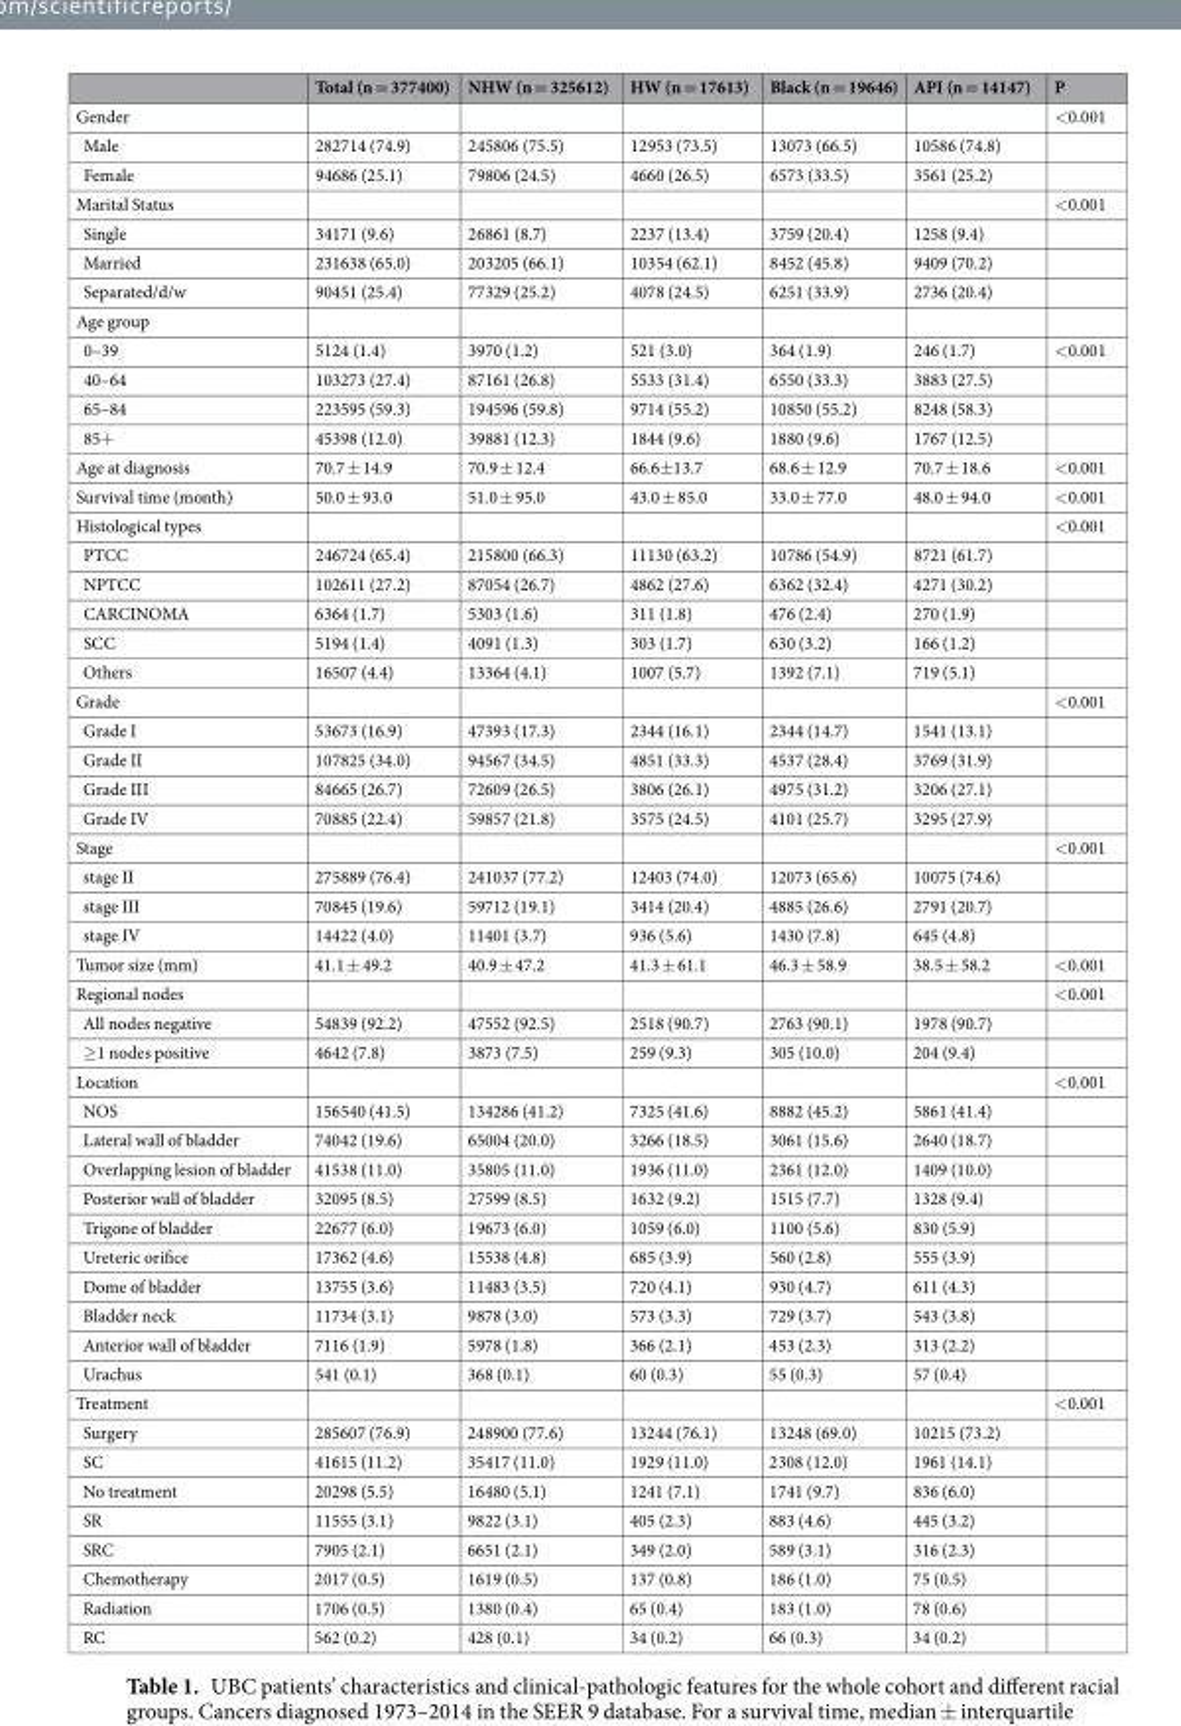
<table><thead><tr><td></td><td>Total (n = 377400)</td><td>NHW (n = 325612)</td><td>HW (n = 17613)</td><td>Black (n = 19646)</td><td>API (n = 14147)</td><td>P</td></tr></thead><tbody><tr><td>Gender</td><td></td><td></td><td></td><td></td><td></td><td>&lt;0.001</td></tr><tr><td>Male</td><td>282714 (74.9)</td><td>245806 (75.5)</td><td>12953 (73.5)</td><td>13073 (66.5)</td><td>10586 (74.8)</td><td></td></tr><tr><td>Female</td><td>94686 (25.1)</td><td>79806 (24.5)</td><td>4660 (26.5)</td><td>6573 (33.5)</td><td>3561 (25.2)</td><td></td></tr><tr><td>Marital Status</td><td></td><td></td><td></td><td></td><td></td><td>&lt;0.001</td></tr><tr><td>Single</td><td>34171 (9.6)</td><td>26861 (8.7)</td><td>2237 (13.4)</td><td>3759 (20.4)</td><td>1258 (9.4)</td><td></td></tr><tr><td>Married</td><td>231638 (65.0)</td><td>203205 (66.1)</td><td>10354 (62.1)</td><td>8452 (45.8)</td><td>9409 (70.2)</td><td></td></tr><tr><td>Separated/d/w</td><td>90451 (25.4)</td><td>77329 (25.2)</td><td>4078 (24.5)</td><td>6251 (33.9)</td><td>2736 (20.4)</td><td></td></tr><tr><td colspan="7">Age group</td></tr><tr><td>0–39</td><td>5124 (1.4)</td><td>3970 (1.2)</td><td>521 (3.0)</td><td>364 (1.9)</td><td>246 (1.7)</td><td>&lt;0.001</td></tr><tr><td>40–64</td><td>103273 (27.4)</td><td>87161 (26.8)</td><td>5533 (31.4)</td><td>6550 (33.3)</td><td>3883 (27.5)</td><td></td></tr><tr><td>65–84</td><td>223595 (59.3)</td><td>194596 (59.8)</td><td>9714 (55.2)</td><td>10850 (55.2)</td><td>8248 (58.3)</td><td></td></tr><tr><td>85+</td><td>45398 (12.0)</td><td>39881 (12.3)</td><td>1844 (9.6)</td><td>1880 (9.6)</td><td>1767 (12.5)</td><td></td></tr><tr><td>Age at diagnosis</td><td>70.7 ± 14.9</td><td>70.9 ± 12.4</td><td>66.6±13.7</td><td>68.6 ± 12.9</td><td>70.7 ± 18.6</td><td>&lt;0.001</td></tr><tr><td>Survival time (month)</td><td>50.0 ± 93.0</td><td>51.0 ± 95.0</td><td>43.0 ± 85.0</td><td>33.0 ± 77.0</td><td>48.0 ± 94.0</td><td>&lt;0.001</td></tr><tr><td>Histological types</td><td></td><td></td><td></td><td></td><td></td><td>&lt;0.001</td></tr><tr><td>PTCC</td><td>246724 (65.4)</td><td>215800 (66.3)</td><td>11130 (63.2)</td><td>10786 (54.9)</td><td>8721 (61.7)</td><td></td></tr><tr><td>NPTCC</td><td>102611 (27.2)</td><td>87054 (26.7)</td><td>4862 (27.6)</td><td>6362 (32.4)</td><td>4271 (30.2)</td><td></td></tr><tr><td>CARCINOMA</td><td>6364 (1.7)</td><td>5303 (1.6)</td><td>311 (1.8)</td><td>476 (2.4)</td><td>270 (1.9)</td><td></td></tr><tr><td>SCC</td><td>5194 (1.4)</td><td>4091 (1.3)</td><td>303 (1.7)</td><td>630 (3.2)</td><td>166 (1.2)</td><td></td></tr><tr><td>Others</td><td>16507 (4.4)</td><td>13364 (4.1)</td><td>1007 (5.7)</td><td>1392 (7.1)</td><td>719 (5.1)</td><td></td></tr><tr><td>Grade</td><td></td><td></td><td></td><td></td><td></td><td>&lt;0.001</td></tr><tr><td>Grade I</td><td>53673 (16.9)</td><td>47393 (17.3)</td><td>2344 (16.1)</td><td>2344 (14.7)</td><td>1541 (13.1)</td><td></td></tr><tr><td>Grade II</td><td>107825 (34.0)</td><td>94567 (34.5)</td><td>4851 (33.3)</td><td>4537 (28.4)</td><td>3769 (31.9)</td><td></td></tr><tr><td>Grade III</td><td>84665 (26.7)</td><td>72609 (26.5)</td><td>3806 (26.1)</td><td>4975 (31.2)</td><td>3206 (27.1)</td><td></td></tr><tr><td>Grade IV</td><td>70885 (22.4)</td><td>59857 (21.8)</td><td>3575 (24.5)</td><td>4101 (25.7)</td><td>3295 (27.9)</td><td></td></tr><tr><td>Stage</td><td></td><td></td><td></td><td></td><td></td><td>&lt;0.001</td></tr><tr><td>stage II</td><td>275889 (76.4)</td><td>241037 (77.2)</td><td>12403 (74.0)</td><td>12073 (65.6)</td><td>10075 (74.6)</td><td></td></tr><tr><td>stage III</td><td>70845 (19.6)</td><td>59712 (19.1)</td><td>3414 (20.4)</td><td>4885 (26.6)</td><td>2791 (20.7)</td><td></td></tr><tr><td>stage IV</td><td>14422 (4.0)</td><td>11401 (3.7)</td><td>936 (5.6)</td><td>1430 (7.8)</td><td>645 (4.8)</td><td></td></tr><tr><td>Tumor size (mm)</td><td>41.1 ± 49.2</td><td>40.9 ± 47.2</td><td>41.3 ± 61.1</td><td>46.3 ± 58.9</td><td>38.5 ± 58.2</td><td>&lt;0.001</td></tr><tr><td>Regional nodes</td><td></td><td></td><td></td><td></td><td></td><td>&lt;0.001</td></tr><tr><td>All nodes negative</td><td>54839 (92.2)</td><td>47552 (92.5)</td><td>2518 (90.7)</td><td>2763 (90.1)</td><td>1978 (90.7)</td><td></td></tr><tr><td>≥1 nodes positive</td><td>4642 (7.8)</td><td>3873 (7.5)</td><td>259 (9.3)</td><td>305 (10.0)</td><td>204 (9.4)</td><td></td></tr><tr><td>Location</td><td></td><td></td><td></td><td></td><td></td><td>&lt;0.001</td></tr><tr><td>NOS</td><td>156540 (41.5)</td><td>134286 (41.2)</td><td>7325 (41.6)</td><td>8882 (45.2)</td><td>5861 (41.4)</td><td></td></tr><tr><td>Lateral wall of bladder</td><td>74042 (19.6)</td><td>65004 (20.0)</td><td>3266 (18.5)</td><td>3061 (15.6)</td><td>2640 (18.7)</td><td></td></tr><tr><td>Overlapping lesion of bladder</td><td>41538 (11.0)</td><td>35805 (11.0)</td><td>1936 (11.0)</td><td>2361 (12.0)</td><td>1409 (10.0)</td><td></td></tr><tr><td>Posterior wall of bladder</td><td>32095 (8.5)</td><td>27599 (8.5)</td><td>1632 (9.2)</td><td>1515 (7.7)</td><td>1328 (9.4)</td><td></td></tr><tr><td>Trigone of bladder</td><td>22677 (6.0)</td><td>19673 (6.0)</td><td>1059 (6.0)</td><td>1100 (5.6)</td><td>830 (5.9)</td><td></td></tr><tr><td>Ureteric orifice</td><td>17362 (4.6)</td><td>15538 (4.8)</td><td>685 (3.9)</td><td>560 (2.8)</td><td>555 (3.9)</td><td></td></tr><tr><td>Dome of bladder</td><td>13755 (3.6)</td><td>11483 (3.5)</td><td>720 (4.1)</td><td>930 (4.7)</td><td>611 (4.3)</td><td></td></tr><tr><td>Bladder neck</td><td>11734 (3.1)</td><td>9878 (3.0)</td><td>573 (3.3)</td><td>729 (3.7)</td><td>543 (3.8)</td><td></td></tr><tr><td>Anterior wall of bladder</td><td>7116 (1.9)</td><td>5978 (1.8)</td><td>366 (2.1)</td><td>453 (2.3)</td><td>313 (2.2)</td><td></td></tr><tr><td>Urachus</td><td>541 (0.1)</td><td>368 (0.1)</td><td>60 (0.3)</td><td>55 (0.3)</td><td>57 (0.4)</td><td></td></tr><tr><td>Treatment</td><td></td><td></td><td></td><td></td><td></td><td>&lt;0.001</td></tr><tr><td>Surgery</td><td>285607 (76.9)</td><td>248900 (77.6)</td><td>13244 (76.1)</td><td>13248 (69.0)</td><td>10215 (73.2)</td><td></td></tr><tr><td>SC</td><td>41615 (11.2)</td><td>35417 (11.0)</td><td>1929 (11.0)</td><td>2308 (12.0)</td><td>1961 (14.1)</td><td></td></tr><tr><td>No treatment</td><td>20298 (5.5)</td><td>16480 (5.1)</td><td>1241 (7.1)</td><td>1741 (9.7)</td><td>836 (6.0)</td><td></td></tr><tr><td>SR</td><td>11555 (3.1)</td><td>9822 (3.1)</td><td>405 (2.3)</td><td>883 (4.6)</td><td>445 (3.2)</td><td></td></tr><tr><td>SRC</td><td>7905 (2.1)</td><td>6651 (2.1)</td><td>349 (2.0)</td><td>589 (3.1)</td><td>316 (2.3)</td><td></td></tr><tr><td>Chemotherapy</td><td>2017 (0.5)</td><td>1619 (0.5)</td><td>137 (0.8)</td><td>186 (1.0)</td><td>75 (0.5)</td><td></td></tr><tr><td>Radiation</td><td>1706 (0.5)</td><td>1380 (0.4)</td><td>65 (0.4)</td><td>183 (1.0)</td><td>78 (0.6)</td><td></td></tr><tr><td>RC</td><td>562 (0.2)</td><td>428 (0.1)</td><td>34 (0.2)</td><td>66 (0.3)</td><td>34 (0.2)</td><td></td></tr></tbody></table>